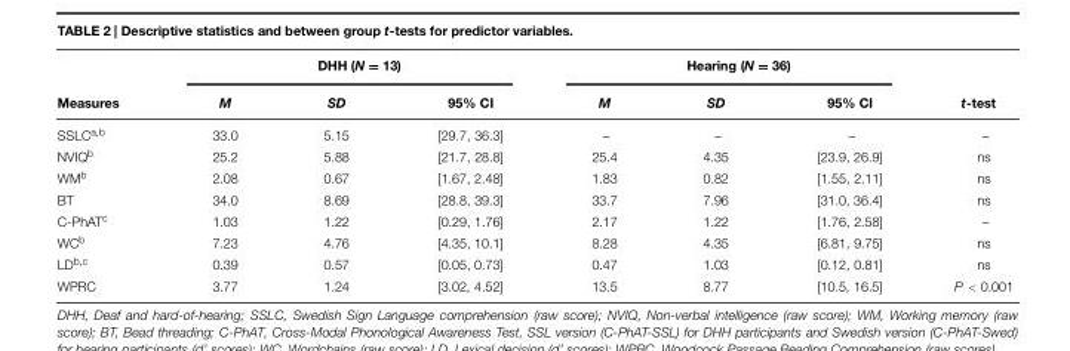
<table><thead><tr><td rowspan="2">Measures</td><td colspan="3">DHH (N = 13)</td><td colspan="3">Hearing (N = 36)</td><td rowspan="2">t-test</td></tr><tr><td>M</td><td>SD</td><td>95% CI</td><td>M</td><td>SD</td><td>95% CI</td></tr></thead><tbody><tr><td>SSLC<sup>a,b</sup></td><td>33.0</td><td>5.15</td><td>[29.7, 36.3]</td><td>–</td><td>–</td><td>–</td><td>–</td></tr><tr><td>NVIQ<sup>b</sup></td><td>25.2</td><td>5.88</td><td>[21.7, 28.8]</td><td>25.4</td><td>4.35</td><td>[23.9, 26.9]</td><td>ns</td></tr><tr><td>WM<sup>b</sup></td><td>2.08</td><td>0.67</td><td>[1.67, 2.48]</td><td>1.83</td><td>0.82</td><td>[1.55, 2.11]</td><td>ns</td></tr><tr><td>BT</td><td>34.0</td><td>8.69</td><td>[28.8, 39.3]</td><td>33.7</td><td>7.96</td><td>[31.0, 36.4]</td><td>ns</td></tr><tr><td>C-PhAT<sup>c</sup></td><td>1.03</td><td>1.22</td><td>[0.29, 1.76]</td><td>2.17</td><td>1.22</td><td>[1.76, 2.58]</td><td>–</td></tr><tr><td>WC<sup>b</sup></td><td>7.23</td><td>4.76</td><td>[4.35, 10.1]</td><td>8.28</td><td>4.35</td><td>[6.81, 9.75]</td><td>ns</td></tr><tr><td>LD<sup>b,c</sup></td><td>0.39</td><td>0.57</td><td>[0.05, 0.73]</td><td>0.47</td><td>1.03</td><td>[0.12, 0.81]</td><td>ns</td></tr><tr><td>WPRC</td><td>3.77</td><td>1.24</td><td>[3.02, 4.52]</td><td>13.5</td><td>8.77</td><td>[10.5, 16.5]</td><td>P &lt; 0.001</td></tr></tbody></table>